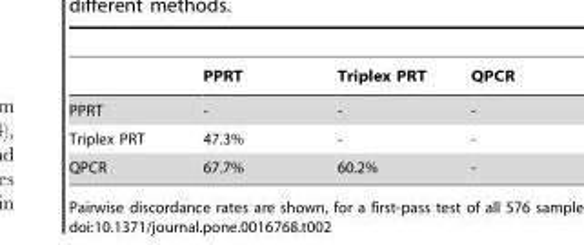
<table><thead><tr><td></td><td>PPRT</td><td>Triplex PRT</td><td>QPCR</td></tr></thead><tbody><tr><td>PPRT</td><td>-</td><td>-</td><td>-</td></tr><tr><td>Triplex PRT</td><td>47.3%</td><td>-</td><td>-</td></tr><tr><td>QPCR</td><td>67.7%</td><td>60.2%</td><td>-</td></tr></tbody></table>